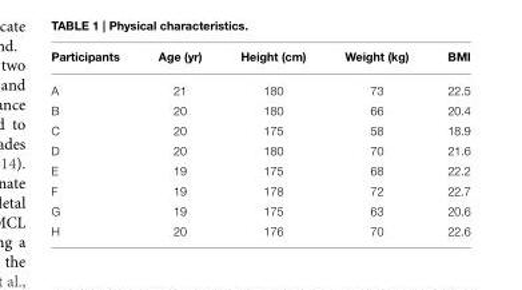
<table><thead><tr><td>Participants</td><td>Age (yr)</td><td>Height (cm)</td><td>Weight (kg)</td><td>BMI</td></tr></thead><tbody><tr><td>A</td><td>21</td><td>180</td><td>73</td><td>22.5</td></tr><tr><td>B</td><td>20</td><td>180</td><td>66</td><td>20.4</td></tr><tr><td>C</td><td>20</td><td>175</td><td>58</td><td>18.9</td></tr><tr><td>D</td><td>20</td><td>180</td><td>70</td><td>21.6</td></tr><tr><td>E</td><td>19</td><td>175</td><td>68</td><td>22.2</td></tr><tr><td>F</td><td>19</td><td>178</td><td>72</td><td>22.7</td></tr><tr><td>G</td><td>19</td><td>175</td><td>63</td><td>20.6</td></tr><tr><td>H</td><td>20</td><td>176</td><td>70</td><td>22.6</td></tr></tbody></table>